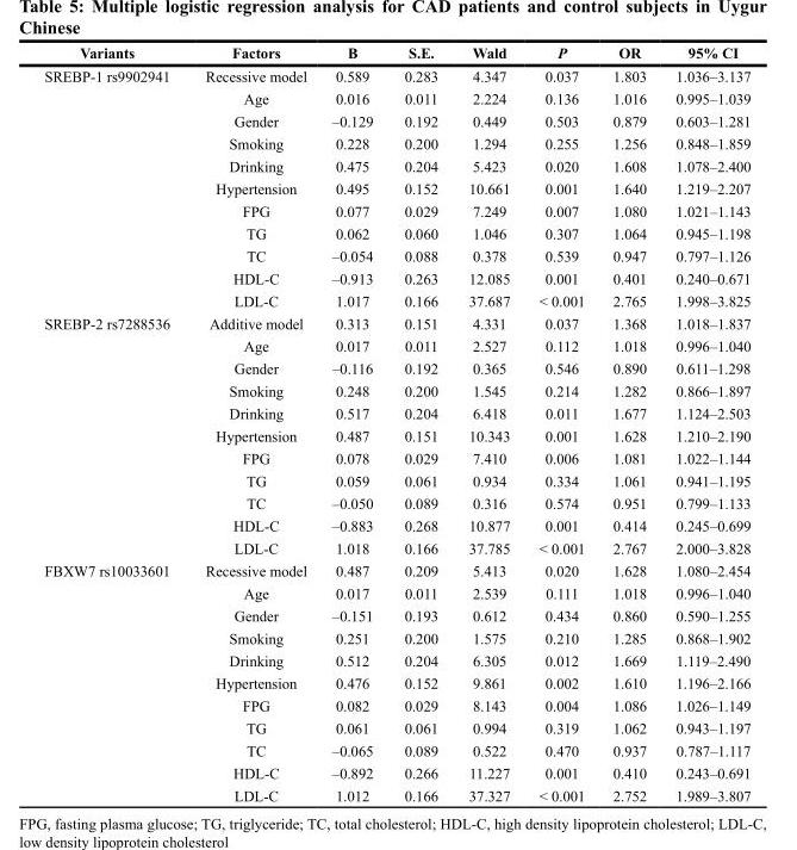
<table><thead><tr><td>Variants</td><td>Factors</td><td>B</td><td>S.E.</td><td>Wald</td><td>P</td><td>OR</td><td>95% CI</td></tr></thead><tbody><tr><td rowspan="11">SREBP-1 rs9902941</td><td>Recessive model</td><td>0.589</td><td>0.283</td><td>4.347</td><td>0.037</td><td>1.803</td><td>1.036–3.137</td></tr><tr><td>Age</td><td>0.016</td><td>0.011</td><td>2.224</td><td>0.136</td><td>1.016</td><td>0.995–1.039</td></tr><tr><td>Gender</td><td>–0.129</td><td>0.192</td><td>0.449</td><td>0.503</td><td>0.879</td><td>0.603–1.281</td></tr><tr><td>Smoking</td><td>0.228</td><td>0.200</td><td>1.294</td><td>0.255</td><td>1.256</td><td>0.848–1.859</td></tr><tr><td>Drinking</td><td>0.475</td><td>0.204</td><td>5.423</td><td>0.020</td><td>1.608</td><td>1.078–2.400</td></tr><tr><td>Hypertension</td><td>0.495</td><td>0.152</td><td>10.661</td><td>0.001</td><td>1.640</td><td>1.219–2.207</td></tr><tr><td>FPG</td><td>0.077</td><td>0.029</td><td>7.249</td><td>0.007</td><td>1.080</td><td>1.021–1.143</td></tr><tr><td>TG</td><td>0.062</td><td>0.060</td><td>1.046</td><td>0.307</td><td>1.064</td><td>0.945–1.198</td></tr><tr><td>TC</td><td>–0.054</td><td>0.088</td><td>0.378</td><td>0.539</td><td>0.947</td><td>0.797–1.126</td></tr><tr><td>HDL-C</td><td>–0.913</td><td>0.263</td><td>12.085</td><td>0.001</td><td>0.401</td><td>0.240–0.671</td></tr><tr><td>LDL-C</td><td>1.017</td><td>0.166</td><td>37.687</td><td>&lt; 0.001</td><td>2.765</td><td>1.998–3.825</td></tr><tr><td rowspan="11">SREBP-2 rs7288536</td><td>Additive model</td><td>0.313</td><td>0.151</td><td>4.331</td><td>0.037</td><td>1.368</td><td>1.018–1.837</td></tr><tr><td>Age</td><td>0.017</td><td>0.011</td><td>2.527</td><td>0.112</td><td>1.018</td><td>0.996–1.040</td></tr><tr><td>Gender</td><td>–0.116</td><td>0.192</td><td>0.365</td><td>0.546</td><td>0.890</td><td>0.611–1.298</td></tr><tr><td>Smoking</td><td>0.248</td><td>0.200</td><td>1.545</td><td>0.214</td><td>1.282</td><td>0.866–1.897</td></tr><tr><td>Drinking</td><td>0.517</td><td>0.204</td><td>6.418</td><td>0.011</td><td>1.677</td><td>1.124–2.503</td></tr><tr><td>Hypertension</td><td>0.487</td><td>0.151</td><td>10.343</td><td>0.001</td><td>1.628</td><td>1.210–2.190</td></tr><tr><td>FPG</td><td>0.078</td><td>0.029</td><td>7.410</td><td>0.006</td><td>1.081</td><td>1.022–1.144</td></tr><tr><td>TG</td><td>0.059</td><td>0.061</td><td>0.934</td><td>0.334</td><td>1.061</td><td>0.941–1.195</td></tr><tr><td>TC</td><td>–0.050</td><td>0.089</td><td>0.316</td><td>0.574</td><td>0.951</td><td>0.799–1.133</td></tr><tr><td>HDL-C</td><td>–0.883</td><td>0.268</td><td>10.877</td><td>0.001</td><td>0.414</td><td>0.245–0.699</td></tr><tr><td>LDL-C</td><td>1.018</td><td>0.166</td><td>37.785</td><td>&lt; 0.001</td><td>2.767</td><td>2.000–3.828</td></tr><tr><td rowspan="11">FBXW7 rs10033601</td><td>Recessive model</td><td>0.487</td><td>0.209</td><td>5.413</td><td>0.020</td><td>1.628</td><td>1.080–2.454</td></tr><tr><td>Age</td><td>0.017</td><td>0.011</td><td>2.539</td><td>0.111</td><td>1.018</td><td>0.996–1.040</td></tr><tr><td>Gender</td><td>–0.151</td><td>0.193</td><td>0.612</td><td>0.434</td><td>0.860</td><td>0.590–1.255</td></tr><tr><td>Smoking</td><td>0.251</td><td>0.200</td><td>1.575</td><td>0.210</td><td>1.285</td><td>0.868–1.902</td></tr><tr><td>Drinking</td><td>0.512</td><td>0.204</td><td>6.305</td><td>0.012</td><td>1.669</td><td>1.119–2.490</td></tr><tr><td>Hypertension</td><td>0.476</td><td>0.152</td><td>9.861</td><td>0.002</td><td>1.610</td><td>1.196–2.166</td></tr><tr><td>FPG</td><td>0.082</td><td>0.029</td><td>8.143</td><td>0.004</td><td>1.086</td><td>1.026–1.149</td></tr><tr><td>TG</td><td>0.061</td><td>0.061</td><td>0.994</td><td>0.319</td><td>1.062</td><td>0.943–1.197</td></tr><tr><td>TC</td><td>–0.065</td><td>0.089</td><td>0.522</td><td>0.470</td><td>0.937</td><td>0.787–1.117</td></tr><tr><td>HDL-C</td><td>–0.892</td><td>0.266</td><td>11.227</td><td>0.001</td><td>0.410</td><td>0.243–0.691</td></tr><tr><td>LDL-C</td><td>1.012</td><td>0.166</td><td>37.327</td><td>&lt; 0.001</td><td>2.752</td><td>1.989–3.807</td></tr></tbody></table>